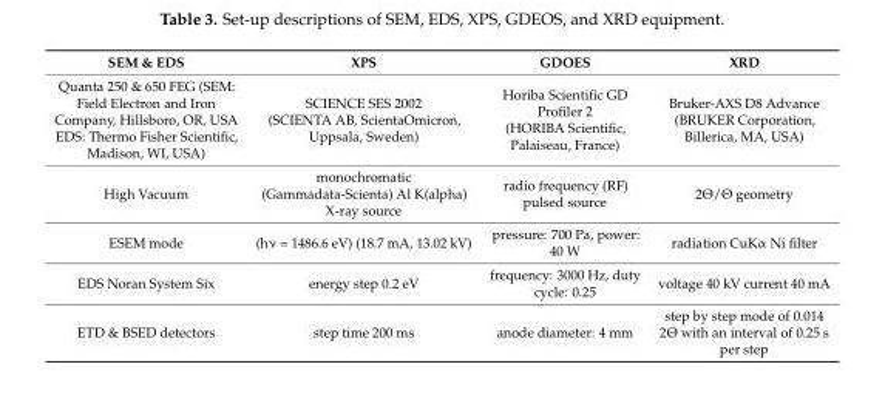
<table><thead><tr><td>SEM &amp; EDS</td><td>XPS</td><td>GDOES</td><td>XRD</td></tr></thead><tbody><tr><td>Quanta 250 &amp; 650 FEG (SEM: Field Electron and Iron Company, Hillsboro, OR, USA EDS: Thermo Fisher Scientific, Madison, WI, USA)</td><td>SCIENCE SES 2002 (SCIENTA AB, ScientaOmicron, Uppsala, Sweden)</td><td>Horiba Scientific GD Profiler 2 (HORIBA Scientific, Palaiseau, France)</td><td>Bruker-AXS D8 Advance (BRUKER Corporation, Billerica, MA, USA)</td></tr><tr><td>High Vacuum</td><td>monochromatic (Gammadata-Scienta) Al K(alpha) X-ray source</td><td>radio frequency (RF) pulsed source</td><td>2Θ/Θ geometry</td></tr><tr><td>ESEM mode</td><td>(hν = 1486.6 eV) (18.7 mA, 13.02 kV)</td><td>pressure: 700 Pa, power: 40 W</td><td>radiation CuKα Ni filter</td></tr><tr><td>EDS Noran System Six</td><td>energy step 0.2 eV</td><td>frequency: 3000 Hz, duty cycle: 0.25</td><td>voltage 40 kV current 40 mA</td></tr><tr><td>ETD &amp; BSED detectors</td><td>step time 200 ms</td><td>anode diameter: 4 mm</td><td>step by step mode of 0.014 2Θ with an interval of 0.25 s per step</td></tr></tbody></table>